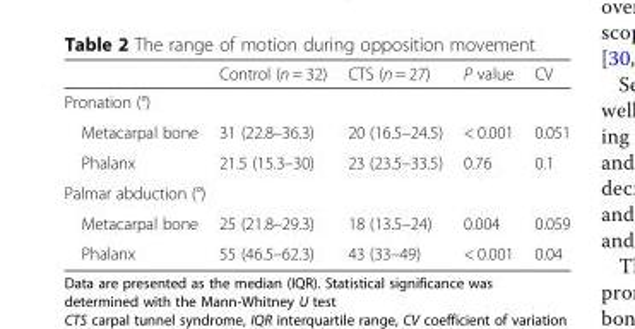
<table><thead><tr><td></td><td>Control (n = 32)</td><td>CTS (n = 27)</td><td>P value</td><td>CV</td></tr></thead><tbody><tr><td colspan="5">Pronation (°)</td></tr><tr><td>Metacarpal bone</td><td>31 (22.8–36.3)</td><td>20 (16.5–24.5)</td><td>&lt; 0.001</td><td>0.051</td></tr><tr><td>Phalanx</td><td>21.5 (15.3–30)</td><td>23 (23.5–33.5)</td><td>0.76</td><td>0.1</td></tr><tr><td colspan="5">Palmar abduction (°)</td></tr><tr><td>Metacarpal bone</td><td>25 (21.8–29.3)</td><td>18 (13.5–24)</td><td>0.004</td><td>0.059</td></tr><tr><td>Phalanx</td><td>55 (46.5–62.3)</td><td>43 (33–49)</td><td>&lt; 0.001</td><td>0.04</td></tr></tbody></table>